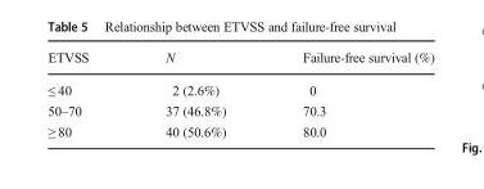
<table><thead><tr><td>ETVSS</td><td>N</td><td>Failure-free survival (%)</td></tr></thead><tbody><tr><td>≤ 40</td><td>2 (2.6%)</td><td>0</td></tr><tr><td>50–70</td><td>37 (46.8%)</td><td>70.3</td></tr><tr><td>≥ 80</td><td>40 (50.6%)</td><td>80.0</td></tr></tbody></table>